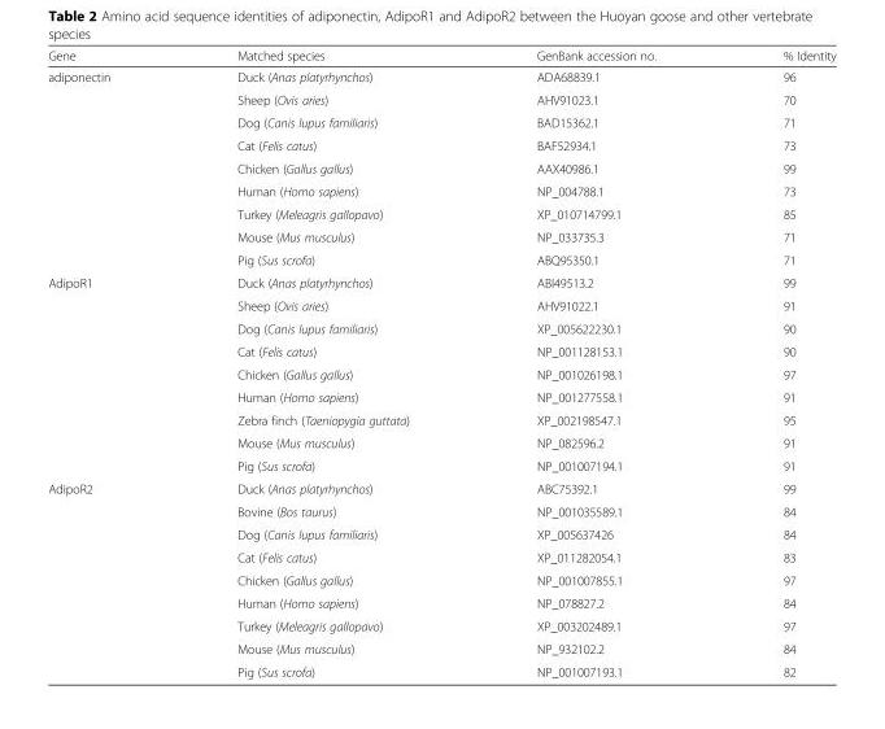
<table><thead><tr><td>Gene</td><td>Matched species</td><td>GenBank accession no.</td><td>% Identity</td></tr></thead><tbody><tr><td rowspan="9">adiponectin</td><td>Duck (Anas platyrhynchos)</td><td>ADA68839.1</td><td>96</td></tr><tr><td>Sheep (Ovis aries)</td><td>AHV91023.1</td><td>70</td></tr><tr><td>Dog (Canis lupus familiaris)</td><td>BAD15362.1</td><td>71</td></tr><tr><td>Cat (Felis catus)</td><td>BAF52934.1</td><td>73</td></tr><tr><td>Chicken (Gallus gallus)</td><td>AAX40986.1</td><td>99</td></tr><tr><td>Human (Homo sapiens)</td><td>NP_004788.1</td><td>73</td></tr><tr><td>Turkey (Meleagris gallopavo)</td><td>XP_010714799.1</td><td>85</td></tr><tr><td>Mouse (Mus musculus)</td><td>NP_033735.3</td><td>71</td></tr><tr><td>Pig (Sus scrofa)</td><td>ABQ95350.1</td><td>71</td></tr><tr><td rowspan="9">AdipoR1</td><td>Duck (Anas platyrhynchos)</td><td>ABI49513.2</td><td>99</td></tr><tr><td>Sheep (Ovis aries)</td><td>AHV91022.1</td><td>91</td></tr><tr><td>Dog (Canis lupus familiaris)</td><td>XP_005622230.1</td><td>90</td></tr><tr><td>Cat (Felis catus)</td><td>NP_001128153.1</td><td>90</td></tr><tr><td>Chicken (Gallus gallus)</td><td>NP_001026198.1</td><td>97</td></tr><tr><td>Human (Homo sapiens)</td><td>NP_001277558.1</td><td>91</td></tr><tr><td>Zebra finch (Taeniopygia guttata)</td><td>XP_002198547.1</td><td>95</td></tr><tr><td>Mouse (Mus musculus)</td><td>NP_082596.2</td><td>91</td></tr><tr><td>Pig (Sus scrofa)</td><td>NP_001007194.1</td><td>91</td></tr><tr><td rowspan="9">AdipoR2</td><td>Duck (Anas platyrhynchos)</td><td>ABC75392.1</td><td>99</td></tr><tr><td>Bovine (Bos taurus)</td><td>NP_001035589.1</td><td>84</td></tr><tr><td>Dog (Canis lupus familiaris)</td><td>XP_005637426</td><td>84</td></tr><tr><td>Cat (Felis catus)</td><td>XP_011282054.1</td><td>83</td></tr><tr><td>Chicken (Gallus gallus)</td><td>NP_001007855.1</td><td>97</td></tr><tr><td>Human (Homo sapiens)</td><td>NP_078827.2</td><td>84</td></tr><tr><td>Turkey (Meleagris gallopavo)</td><td>XP_003202489.1</td><td>97</td></tr><tr><td>Mouse (Mus musculus)</td><td>NP_932102.2</td><td>84</td></tr><tr><td>Pig (Sus scrofa)</td><td>NP_001007193.1</td><td>82</td></tr></tbody></table>